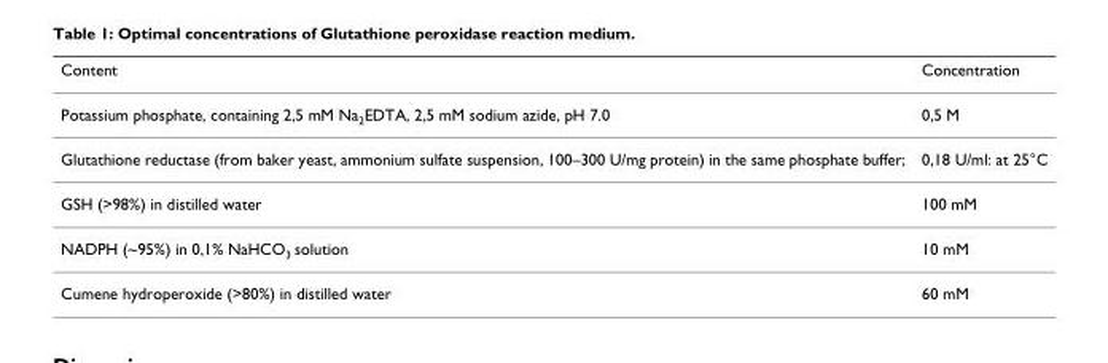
<table><thead><tr><td>Content</td><td>Concentration</td></tr></thead><tbody><tr><td>Potassium phosphate, containing 2,5 mM Na<sub>2</sub>EDTA, 2,5 mM sodium azide, pH 7.0</td><td>0,5 M</td></tr><tr><td>Glutathione reductase (from baker yeast, ammonium sulfate suspension, 100–300 U/mg protein) in the same phosphate buffer;</td><td>0,18 U/ml: at 25°C</td></tr><tr><td>GSH (&gt;98%) in distilled water</td><td>100 mM</td></tr><tr><td>NADPH (~95%) in 0,1% NaHCO<sub>3</sub> solution</td><td>10 mM</td></tr><tr><td>Cumene hydroperoxide (&gt;80%) in distilled water</td><td>60 mM</td></tr></tbody></table>